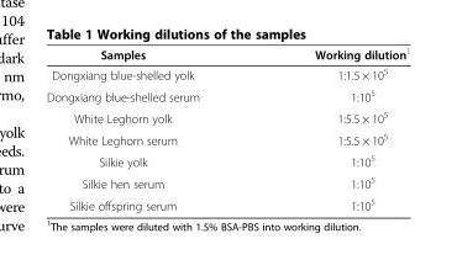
<table><thead><tr><td>Samples</td><td>Working dilution<sup>1</sup></td></tr></thead><tbody><tr><td>Dongxiang blue-shelled yolk</td><td>1:1.5 × 10<sup>5</sup></td></tr><tr><td>Dongxiang blue-shelled serum</td><td>1:10<sup>5</sup></td></tr><tr><td>White Leghorn yolk</td><td>1:5.5 × 10<sup>5</sup></td></tr><tr><td>White Leghorn serum</td><td>1:5.5 × 10<sup>5</sup></td></tr><tr><td>Silkie yolk</td><td>1:10<sup>5</sup></td></tr><tr><td>Silkie hen serum</td><td>1:10<sup>5</sup></td></tr><tr><td>Silkie offspring serum</td><td>1:10<sup>5</sup></td></tr></tbody></table>